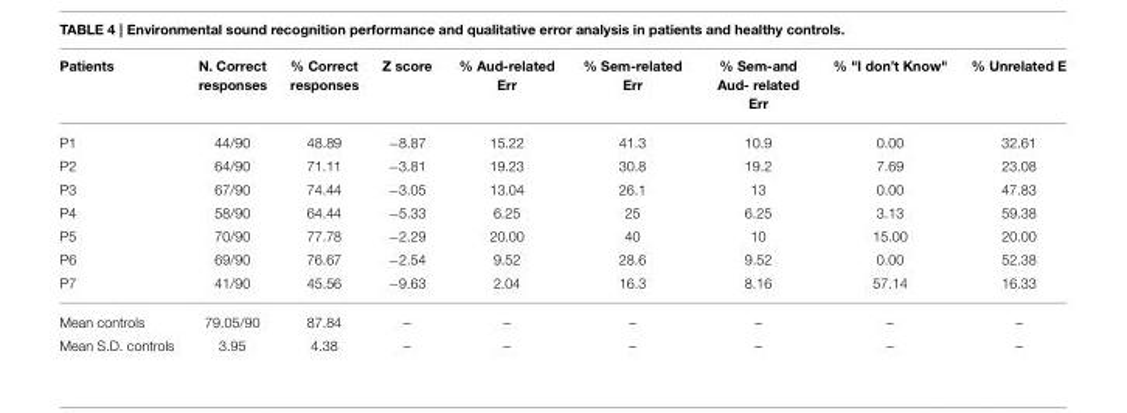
<table><thead><tr><td>Patients</td><td>N. Correct responses</td><td>% Correct responses</td><td>Z score</td><td>% Aud-related Err</td><td>% Sem-related Err</td><td>% Sem-and Aud- related Err</td><td>% &quot;I don’t Know&quot;</td><td>% Unrelated E</td></tr></thead><tbody><tr><td>P1</td><td>44/90</td><td>48.89</td><td>−8.87</td><td>15.22</td><td>41.3</td><td>10.9</td><td>0.00</td><td>32.61</td></tr><tr><td>P2</td><td>64/90</td><td>71.11</td><td>−3.81</td><td>19.23</td><td>30.8</td><td>19.2</td><td>7.69</td><td>23.08</td></tr><tr><td>P3</td><td>67/90</td><td>74.44</td><td>−3.05</td><td>13.04</td><td>26.1</td><td>13</td><td>0.00</td><td>47.83</td></tr><tr><td>P4</td><td>58/90</td><td>64.44</td><td>−5.33</td><td>6.25</td><td>25</td><td>6.25</td><td>3.13</td><td>59.38</td></tr><tr><td>P5</td><td>70/90</td><td>77.78</td><td>−2.29</td><td>20.00</td><td>40</td><td>10</td><td>15.00</td><td>20.00</td></tr><tr><td>P6</td><td>69/90</td><td>76.67</td><td>−2.54</td><td>9.52</td><td>28.6</td><td>9.52</td><td>0.00</td><td>52.38</td></tr><tr><td>P7</td><td>41/90</td><td>45.56</td><td>−9.63</td><td>2.04</td><td>16.3</td><td>8.16</td><td>57.14</td><td>16.33</td></tr><tr><td>Mean controls</td><td>79.05/90</td><td>87.84</td><td>–</td><td>–</td><td>–</td><td>–</td><td>–</td><td>–</td></tr><tr><td>Mean S.D. controls</td><td>3.95</td><td>4.38</td><td>–</td><td>–</td><td>–</td><td>–</td><td>–</td><td>–</td></tr></tbody></table>